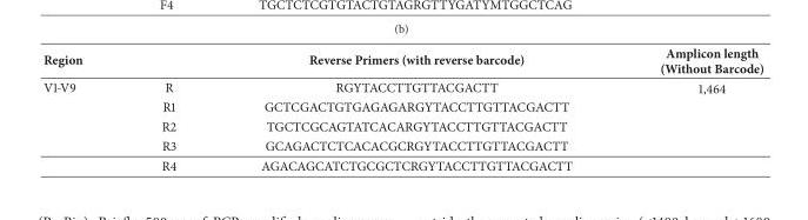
<table><thead><tr><td>Region</td><td></td><td>Reverse Primers (with reverse barcode)</td><td>Amplicon length (Without Barcode)</td></tr></thead><tbody><tr><td rowspan="5">V1-V9</td><td>R</td><td>RGYTACCTTGTTACGACTT</td><td>1,464</td></tr><tr><td>R1</td><td>GCTCGACTGTGAGAGARGYTACCTTGTTACGACTT</td><td></td></tr><tr><td>R2</td><td>TGCTCGCAGTATCACARGYTACCTTGTTACGACTT</td><td></td></tr><tr><td>R3</td><td>GCAGACTCTCACACGCRGYTACCTTGTTACGACTT</td><td></td></tr><tr><td>R4</td><td>AGACAGCATCTGCGCTCRGYTACCTTGTTACGACTT</td><td></td></tr></tbody></table>